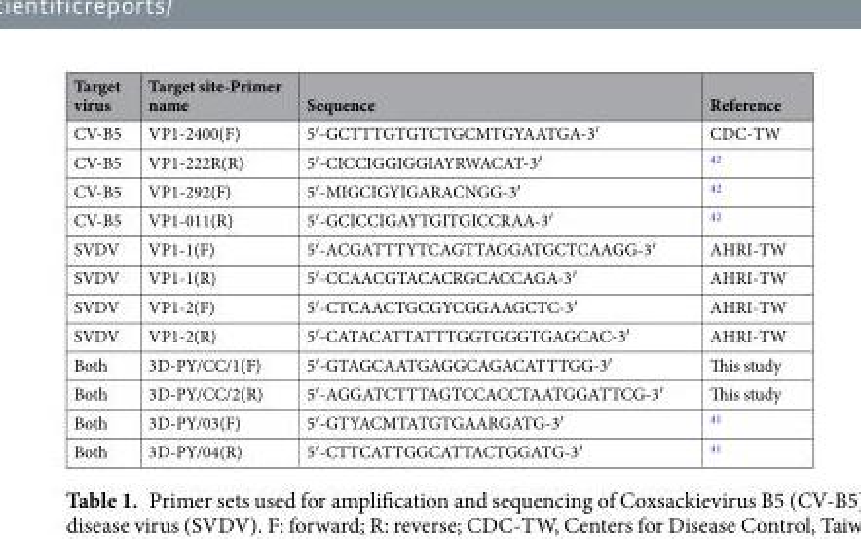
<table><thead><tr><td>Target virus</td><td>Target site-Primer name</td><td>Sequence</td><td>Reference</td></tr></thead><tbody><tr><td>CV-B5</td><td>VP1-2400(F)</td><td>5′-GCTTTGTGTCTGCMTGYAATGA-3′</td><td>CDC-TW</td></tr><tr><td>CV-B5</td><td>VP1-222R(R)</td><td>5′-CICCIGGIGGIAYRWACAT-3′</td><td><sup>42</sup></td></tr><tr><td>CV-B5</td><td>VP1-292(F)</td><td>5′-MIGCIGYIGARACNGG-3′</td><td><sup>42</sup></td></tr><tr><td>CV-B5</td><td>VP1-011(R)</td><td>5′-GCICCIGAYTGITGICCRAA-3′</td><td><sup>42</sup></td></tr><tr><td>SVDV</td><td>VP1-1(F)</td><td>5′-ACGATTTYTCAGTTAGGATGCTCAAGG-3′</td><td>AHRI-TW</td></tr><tr><td>SVDV</td><td>VP1-1(R)</td><td>5′-CCAACGTACACRGCACCAGA-3′</td><td>AHRI-TW</td></tr><tr><td>SVDV</td><td>VP1-2(F)</td><td>5′-CTCAACTGCGYCGGAAGCTC-3′</td><td>AHRI-TW</td></tr><tr><td>SVDV</td><td>VP1-2(R)</td><td>5′-CATACATTATTTGGTGGGTGAGCAC-3′</td><td>AHRI-TW</td></tr><tr><td>Both</td><td>3D-PY/CC/1(F)</td><td>5′-GTAGCAATGAGGCAGACATTTGG-3′</td><td>This study</td></tr><tr><td>Both</td><td>3D-PY/CC/2(R)</td><td>5′-AGGATCTTTAGTCCACCTAATGGATTCG-3′</td><td>This study</td></tr><tr><td>Both</td><td>3D-PY/03(F)</td><td>5′-GTYACMTATGTGAARGATG-3′</td><td><sup>41</sup></td></tr><tr><td>Both</td><td>3D-PY/04(R)</td><td>5′-CTTCATTGGCATTACTGGATG-3′</td><td><sup>41</sup></td></tr></tbody></table>